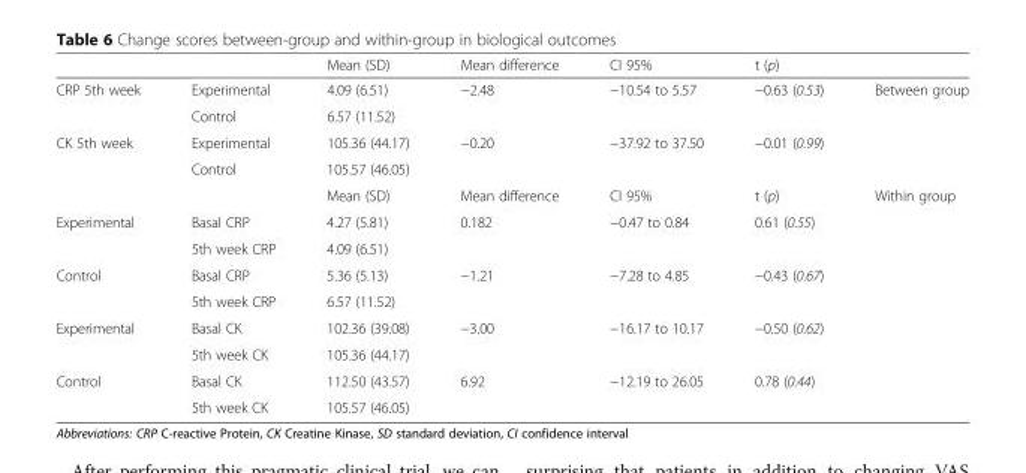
<table><thead><tr><td></td><td></td><td>Mean (SD)</td><td>Mean difference</td><td>CI 95%</td><td>t (p)</td><td></td></tr></thead><tbody><tr><td rowspan="2">CRP 5th week</td><td>Experimental</td><td>4.09 (6.51)</td><td rowspan="2">−2.48</td><td rowspan="2">−10.54 to 5.57</td><td rowspan="2">−0.63 (0.53)</td><td rowspan="4">Between group</td></tr><tr><td>Control</td><td>6.57 (11.52)</td></tr><tr><td rowspan="3">CK 5th week</td><td>Experimental</td><td>105.36 (44.17)</td><td rowspan="2">−0.20</td><td rowspan="2">−37.92 to 37.50</td><td rowspan="2">−0.01 (0.99)</td></tr><tr><td>Control</td><td>105.57 (46.05)</td></tr><tr><td></td><td>Mean (SD)</td><td>Mean difference</td><td>CI 95%</td><td>t (p)</td><td rowspan="9">Within group</td></tr><tr><td rowspan="2">Experimental</td><td>Basal CRP</td><td>4.27 (5.81)</td><td rowspan="2">0.182</td><td rowspan="2">−0.47 to 0.84</td><td rowspan="2">0.61 (0.55)</td></tr><tr><td>5th week CRP</td><td>4.09 (6.51)</td></tr><tr><td rowspan="2">Control</td><td>Basal CRP</td><td>5.36 (5.13)</td><td rowspan="2">−1.21</td><td rowspan="2">−7.28 to 4.85</td><td rowspan="2">−0.43 (0.67)</td></tr><tr><td>5th week CRP</td><td>6.57 (11.52)</td></tr><tr><td rowspan="2">Experimental</td><td>Basal CK</td><td>102.36 (39.08)</td><td rowspan="2">−3.00</td><td rowspan="2">−16.17 to 10.17</td><td rowspan="2">−0.50 (0.62)</td></tr><tr><td>5th week CK</td><td>105.36 (44.17)</td></tr><tr><td rowspan="2">Control</td><td>Basal CK</td><td>112.50 (43.57)</td><td rowspan="2">6.92</td><td rowspan="2">−12.19 to 26.05</td><td rowspan="2">0.78 (0.44)</td></tr><tr><td>5th week CK</td><td>105.57 (46.05)</td></tr></tbody></table>